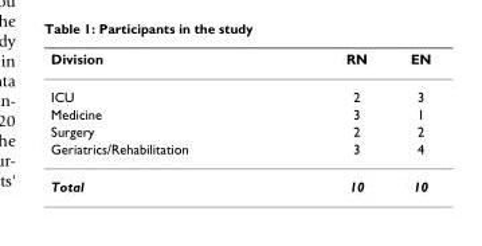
<table><thead><tr><td>Division</td><td>RN</td><td>EN</td></tr></thead><tbody><tr><td>ICU</td><td>2</td><td>3</td></tr><tr><td>Medicine</td><td>3</td><td>1</td></tr><tr><td>Surgery</td><td>2</td><td>2</td></tr><tr><td>Geriatrics/Rehabilitation</td><td>3</td><td>4</td></tr><tr><td>Total</td><td>10</td><td>10</td></tr></tbody></table>